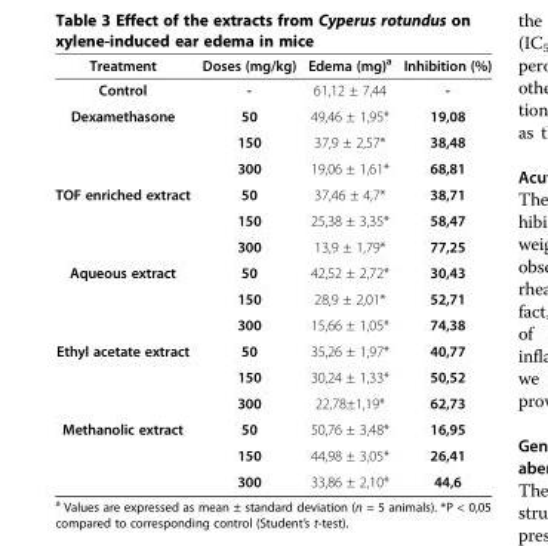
<table><thead><tr><td>Treatment</td><td>Doses (mg/kg)</td><td>Edema (mg)<sup>a</sup></td><td>Inhibition (%)</td></tr></thead><tbody><tr><td>Control</td><td>-</td><td>61,12 ± 7,44</td><td>-</td></tr><tr><td rowspan="3">Dexamethasone</td><td>50</td><td>49,46 ± 1,95*</td><td>19,08</td></tr><tr><td>150</td><td>37,9 ± 2,57*</td><td>38,48</td></tr><tr><td>300</td><td>19,06 ± 1,61*</td><td>68,81</td></tr><tr><td rowspan="3">TOF enriched extract</td><td>50</td><td>37,46 ± 4,7*</td><td>38,71</td></tr><tr><td>150</td><td>25,38 ± 3,35*</td><td>58,47</td></tr><tr><td>300</td><td>13,9 ± 1,79*</td><td>77,25</td></tr><tr><td rowspan="3">Aqueous extract</td><td>50</td><td>42,52 ± 2,72*</td><td>30,43</td></tr><tr><td>150</td><td>28,9 ± 2,01*</td><td>52,71</td></tr><tr><td>300</td><td>15,66 ± 1,05*</td><td>74,38</td></tr><tr><td rowspan="3">Ethyl acetate extract</td><td>50</td><td>35,26 ± 1,97*</td><td>40,77</td></tr><tr><td>150</td><td>30,24 ± 1,33*</td><td>50,52</td></tr><tr><td>300</td><td>22,78±1,19*</td><td>62,73</td></tr><tr><td rowspan="3">Methanolic extract</td><td>50</td><td>50,76 ± 3,48*</td><td>16,95</td></tr><tr><td>150</td><td>44,98 ± 3,05*</td><td>26,41</td></tr><tr><td>300</td><td>33,86 ± 2,10*</td><td>44,6</td></tr></tbody></table>